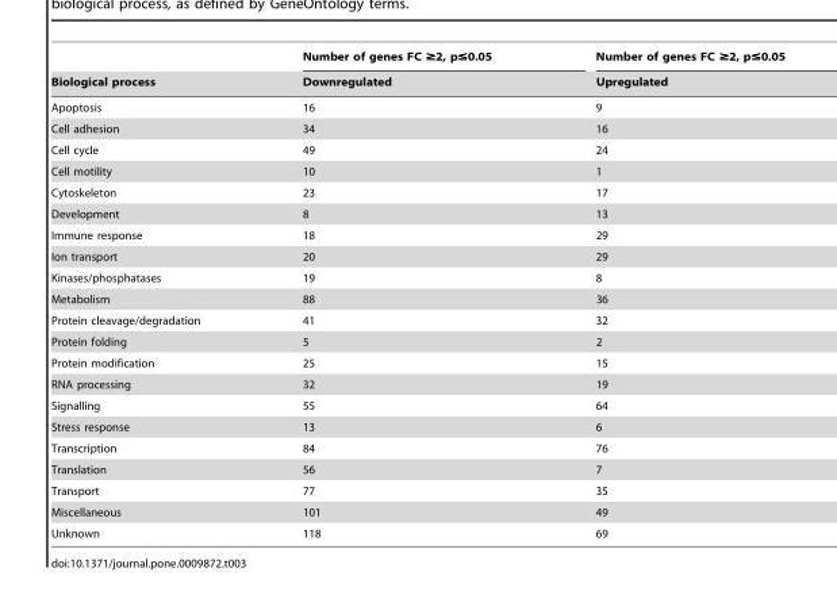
<table><thead><tr><td rowspan="2">Biological process</td><td rowspan="2">Number of genes FC ≥2, p≤0.05 Downregulated</td><td rowspan="2">Number of genes FC ≥2, p≤0.05 Upregulated</td></tr><tr></tr></thead><tbody><tr><td>Apoptosis</td><td>16</td><td>9</td></tr><tr><td>Cell adhesion</td><td>34</td><td>16</td></tr><tr><td>Cell cycle</td><td>49</td><td>24</td></tr><tr><td>Cell motility</td><td>10</td><td>1</td></tr><tr><td>Cytoskeleton</td><td>23</td><td>17</td></tr><tr><td>Development</td><td>8</td><td>13</td></tr><tr><td>Immune response</td><td>18</td><td>29</td></tr><tr><td>Ion transport</td><td>20</td><td>29</td></tr><tr><td>Kinases/phosphatases</td><td>19</td><td>8</td></tr><tr><td>Metabolism</td><td>88</td><td>36</td></tr><tr><td>Protein cleavage/degradation</td><td>41</td><td>32</td></tr><tr><td>Protein folding</td><td>5</td><td>2</td></tr><tr><td>Protein modification</td><td>25</td><td>15</td></tr><tr><td>RNA processing</td><td>32</td><td>19</td></tr><tr><td>Signalling</td><td>55</td><td>64</td></tr><tr><td>Stress response</td><td>13</td><td>6</td></tr><tr><td>Transcription</td><td>84</td><td>76</td></tr><tr><td>Translation</td><td>56</td><td>7</td></tr><tr><td>Transport</td><td>77</td><td>35</td></tr><tr><td>Miscellaneous</td><td>101</td><td>49</td></tr><tr><td>Unknown</td><td>118</td><td>69</td></tr></tbody></table>